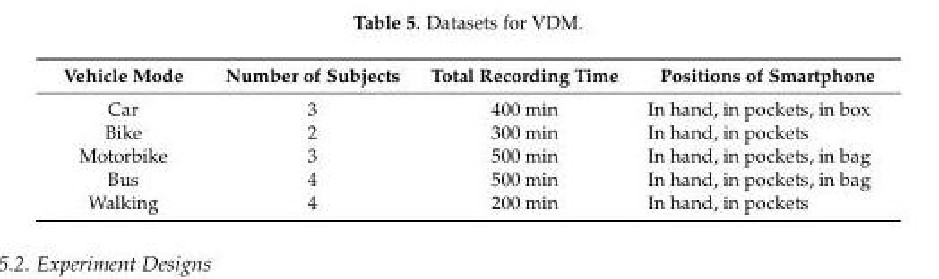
<table><thead><tr><td>Vehicle Mode</td><td>Number of Subjects</td><td>Total Recording Time</td><td>Positions of Smartphone</td></tr></thead><tbody><tr><td>Car</td><td>3</td><td>400 min</td><td>In hand, in pockets, in box</td></tr><tr><td>Bike</td><td>2</td><td>300 min</td><td>In hand, in pockets</td></tr><tr><td>Motorbike</td><td>3</td><td>500 min</td><td>In hand, in pockets, in bag</td></tr><tr><td>Bus</td><td>4</td><td>500 min</td><td>In hand, in pockets, in bag</td></tr><tr><td>Walking</td><td>4</td><td>200 min</td><td>In hand, in pockets</td></tr></tbody></table>